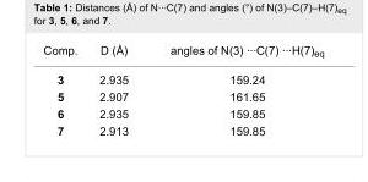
<table><tbody><tr><td>Comp.</td><td>D (Å)</td><td>angles of N(3) ∙∙∙C(7) ∙∙∙H(7)<sub>eq</sub></td></tr><tr><td>3</td><td>2.935</td><td>159.24</td></tr><tr><td>5</td><td>2.907</td><td>161.65</td></tr><tr><td>6</td><td>2.935</td><td>159.85</td></tr><tr><td>7</td><td>2.913</td><td>159.85</td></tr></tbody></table>